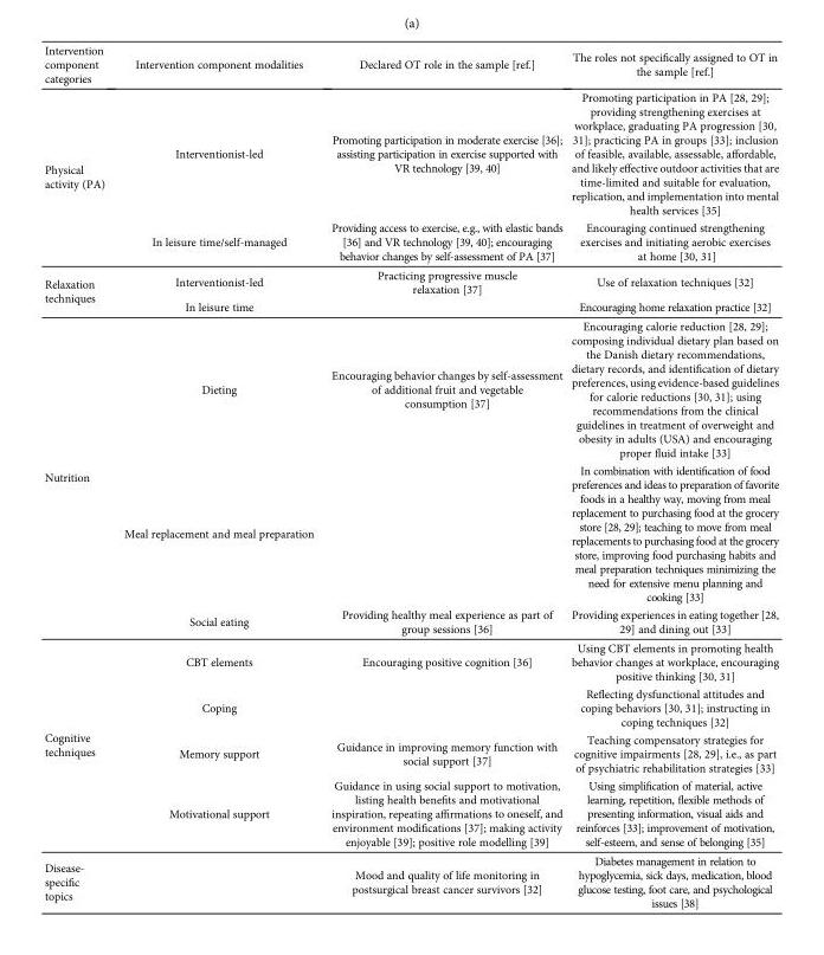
<table><thead><tr><td>Intervention component categories</td><td>Intervention component modalities</td><td>Declared OT role in the sample [ref.]</td><td>The roles not specifically assigned to OT in the sample [ref.]</td></tr></thead><tbody><tr><td rowspan="2">Physical activity (PA)</td><td>Interventionist-led</td><td>Promoting participation in moderate exercise [36]; assisting participation in exercise supported with VR technology [39, 40]</td><td>Promoting participation in PA [28, 29]; providing strengthening exercises at workplace, graduating PA progression [30, 31]; practicing PA in groups [33]; inclusion of feasible, available, assessable, affordable, and likely effective outdoor activities that are time-limited and suitable for evaluation, replication, and implementation into mental health services [35]</td></tr><tr><td>In leisure time/self-managed</td><td>Providing access to exercise, e.g., with elastic bands [36] and VR technology [39, 40]; encouraging behavior changes by self-assessment of PA [37]</td><td>Encouraging continued strengthening exercises and initiating aerobic exercises at home [30, 31]</td></tr><tr><td rowspan="2">Relaxation techniques</td><td>Interventionist-led</td><td>Practicing progressive muscle relaxation [37]</td><td>Use of relaxation techniques [32]</td></tr><tr><td>In leisure time</td><td></td><td>Encouraging home relaxation practice [32]</td></tr><tr><td rowspan="3">Nutrition</td><td>Dieting</td><td>Encouraging behavior changes by self-assessment of additional fruit and vegetable consumption [37]</td><td>Encouraging calorie reduction [28, 29]; composing individual dietary plan based on the Danish dietary recommendations, dietary records, and identification of dietary preferences, using evidence-based guidelines for calorie reductions [30, 31]; using recommendations from the clinical guidelines in treatment of overweight and obesity in adults (USA) and encouraging proper fluid intake [33]</td></tr><tr><td>Meal replacement and meal preparation</td><td></td><td>In combination with identification of food preferences and ideas to preparation of favorite foods in a healthy way, moving from meal replacement to purchasing food at the grocery store [28, 29]; teaching to move from meal replacements to purchasing food at the grocery store, improving food purchasing habits and meal preparation techniques minimizing the need for extensive menu planning and cooking [33]</td></tr><tr><td>Social eating</td><td>Providing healthy meal experience as part of group sessions [36]</td><td>Providing experiences in eating together [28, 29] and dining out [33]</td></tr><tr><td rowspan="4">Cognitive techniques</td><td>CBT elements</td><td>Encouraging positive cognition [36]</td><td>Using CBT elements in promoting health behavior changes at workplace, encouraging positive thinking [30, 31]</td></tr><tr><td>Coping</td><td></td><td>Reflecting dysfunctional attitudes and coping behaviors [30, 31]; instructing in coping techniques [32]</td></tr><tr><td>Memory support</td><td>Guidance in improving memory function with social support [37]</td><td>Teaching compensatory strategies for cognitive impairments [28, 29], i.e., as part of psychiatric rehabilitation strategies [33]</td></tr><tr><td>Motivational support</td><td>Guidance in using social support to motivation, listing health benefits and motivational inspiration, repeating affirmations to oneself, and environment modifications [37]; making activity enjoyable [39]; positive role modelling [39]</td><td>Using simplification of material, active learning, repetition, flexible methods of presenting information, visual aids and reinforces [33]; improvement of motivation, self-esteem, and sense of belonging [35]</td></tr><tr><td>Disease- specific topics</td><td></td><td>Mood and quality of life monitoring in postsurgical breast cancer survivors [32]</td><td>Diabetes management in relation to hypoglycemia, sick days, medication, blood glucose testing, foot care, and psychological issues [38]</td></tr></tbody></table>